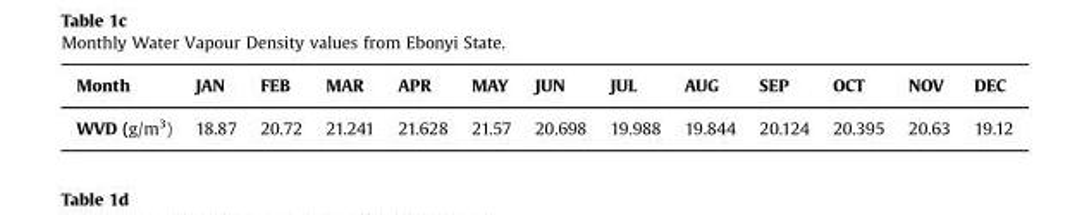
<table><thead><tr><td>Month</td><td>JAN</td><td>FEB</td><td>MAR</td><td>APR</td><td>MAY</td><td>JUN</td><td>JUL</td><td>AUG</td><td>SEP</td><td>OCT</td><td>NOV</td><td>DEC</td></tr></thead><tbody><tr><td>WVD (g/m<sup>3</sup>)</td><td>18.87</td><td>20.72</td><td>21.241</td><td>21.628</td><td>21.57</td><td>20.698</td><td>19.988</td><td>19.844</td><td>20.124</td><td>20.395</td><td>20.63</td><td>19.12</td></tr></tbody></table>